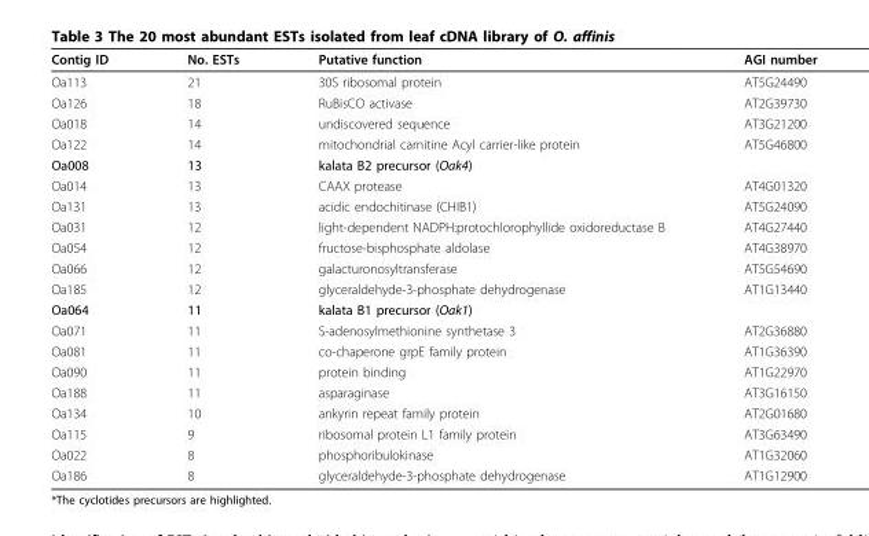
<table><thead><tr><td>Contig ID</td><td>No. ESTs</td><td>Putative function</td><td>AGI number</td></tr></thead><tbody><tr><td>Oa113</td><td>21</td><td>30S ribosomal protein</td><td>AT5G24490</td></tr><tr><td>Oa126</td><td>18</td><td>RuBisCO activase</td><td>AT2G39730</td></tr><tr><td>Oa018</td><td>14</td><td>undiscovered sequence</td><td>AT3G21200</td></tr><tr><td>Oa122</td><td>14</td><td>mitochondrial carnitine Acyl carrier-like protein</td><td>AT5G46800</td></tr><tr><td>Oa008</td><td>13</td><td>kalata B2 precursor (Oak4)</td><td></td></tr><tr><td>Oa014</td><td>13</td><td>CAAX protease</td><td>AT4G01320</td></tr><tr><td>Oa131</td><td>13</td><td>acidic endochitinase (CHIB1)</td><td>AT5G24090</td></tr><tr><td>Oa031</td><td>12</td><td>light-dependent NADPH:protochlorophyllide oxidoreductase B</td><td>AT4G27440</td></tr><tr><td>Oa054</td><td>12</td><td>fructose-bisphosphate aldolase</td><td>AT4G38970</td></tr><tr><td>Oa066</td><td>12</td><td>galacturonosyltransferase</td><td>AT5G54690</td></tr><tr><td>Oa185</td><td>12</td><td>glyceraldehyde-3-phosphate dehydrogenase</td><td>AT1G13440</td></tr><tr><td>Oa064</td><td>11</td><td>kalata B1 precursor (Oak1)</td><td></td></tr><tr><td>Oa071</td><td>11</td><td>S-adenosylmethionine synthetase 3</td><td>AT2G36880</td></tr><tr><td>Oa081</td><td>11</td><td>co-chaperone grpE family protein</td><td>AT1G36390</td></tr><tr><td>Oa090</td><td>11</td><td>protein binding</td><td>AT1G22970</td></tr><tr><td>Oa188</td><td>11</td><td>asparaginase</td><td>AT3G16150</td></tr><tr><td>Oa134</td><td>10</td><td>ankyrin repeat family protein</td><td>AT2G01680</td></tr><tr><td>Oa115</td><td>9</td><td>ribosomal protein L1 family protein</td><td>AT3G63490</td></tr><tr><td>Oa022</td><td>8</td><td>phosphoribulokinase</td><td>AT1G32060</td></tr><tr><td>Oa186</td><td>8</td><td>glyceraldehyde-3-phosphate dehydrogenase</td><td>AT1G12900</td></tr></tbody></table>